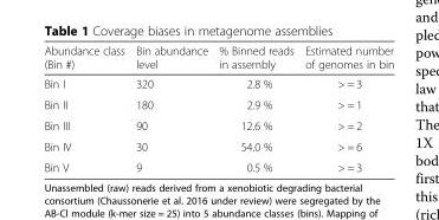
<table><thead><tr><td>Abundance class (Bin #)</td><td>Bin abundance level</td><td>% Binned reads in assembly</td><td>Estimated number of genomes in bin</td></tr></thead><tbody><tr><td>Bin I</td><td>320</td><td>2.8 %</td><td>&gt; = 3</td></tr><tr><td>Bin II</td><td>180</td><td>2.9 %</td><td>&gt; = 1</td></tr><tr><td>Bin III</td><td>90</td><td>12.6 %</td><td>&gt; = 2</td></tr><tr><td>Bin IV</td><td>30</td><td>54.0 %</td><td>&gt; = 6</td></tr><tr><td>Bin V</td><td>9</td><td>0.5 %</td><td>&gt; = 3</td></tr></tbody></table>